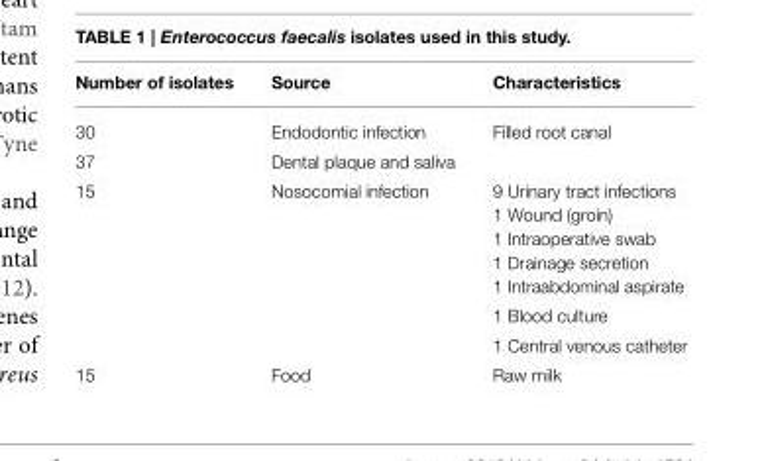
<table><thead><tr><td>Number of isolates</td><td>Source</td><td>Characteristics</td></tr></thead><tbody><tr><td>30</td><td>Endodontic infection</td><td>Filled root canal</td></tr><tr><td>37</td><td>Dental plaque and saliva</td><td></td></tr><tr><td rowspan="3">15</td><td>Nosocomial infection</td><td>9 Urinary tract infections 1 Wound (groin) 1 Intraoperative swab 1 Drainage secretion 1 Intraabdominal aspirate</td></tr><tr><td></td><td>1 Blood culture</td></tr><tr><td></td><td>1 Central venous catheter</td></tr><tr><td>15</td><td>Food</td><td>Raw milk</td></tr></tbody></table>